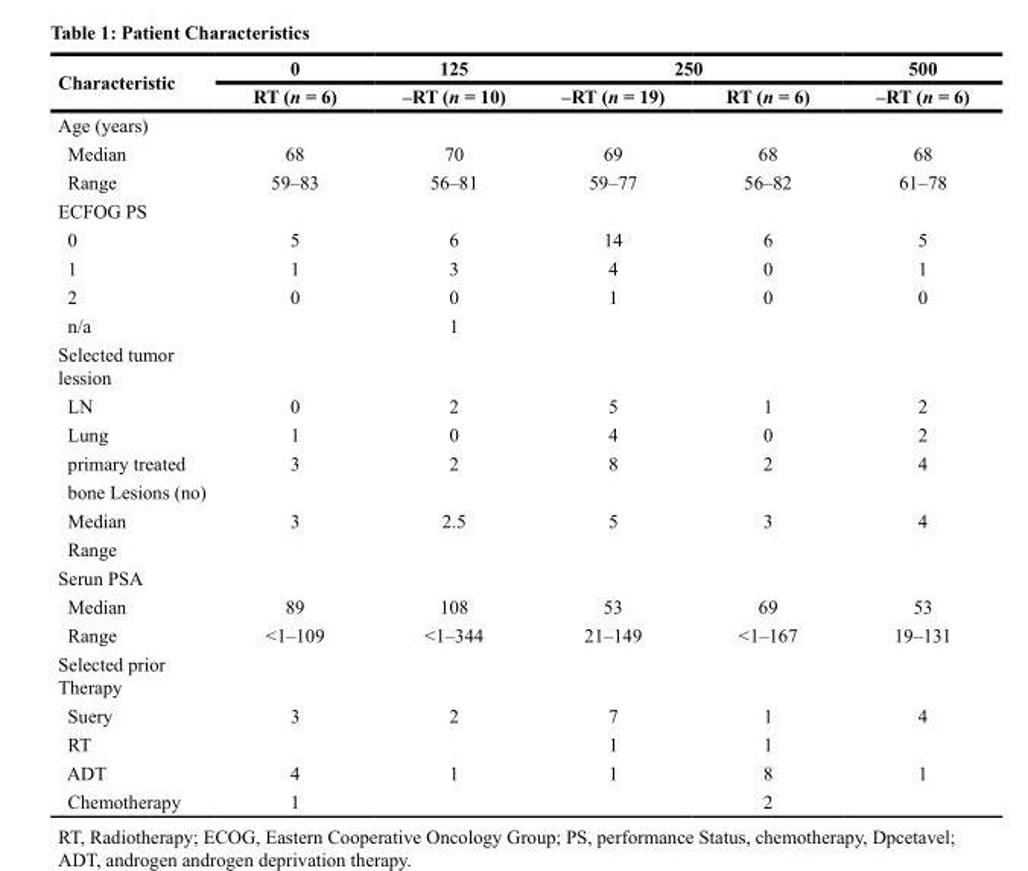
<table><thead><tr><td rowspan="2">Characteristic</td><td rowspan="2">0 RT (n = 6)</td><td rowspan="2">125 –RT (n = 10)</td><td colspan="2">250</td><td rowspan="2">500 –RT (n = 6)</td></tr><tr><td>–RT (n = 19)</td><td>RT (n = 6)</td></tr></thead><tbody><tr><td colspan="6">Age (years)</td></tr><tr><td>Median</td><td>68</td><td>70</td><td>69</td><td>68</td><td>68</td></tr><tr><td>Range</td><td>59–83</td><td>56–81</td><td>59–77</td><td>56–82</td><td>61–78</td></tr><tr><td colspan="6">ECFOG PS</td></tr><tr><td>0</td><td>5</td><td>6</td><td>14</td><td>6</td><td>5</td></tr><tr><td>1</td><td>1</td><td>3</td><td>4</td><td>0</td><td>1</td></tr><tr><td>2</td><td>0</td><td>0</td><td>1</td><td>0</td><td>0</td></tr><tr><td>n/a</td><td></td><td>1</td><td></td><td></td><td></td></tr><tr><td colspan="6">Selected tumor lession</td></tr><tr><td>LN</td><td>0</td><td>2</td><td>5</td><td>1</td><td>2</td></tr><tr><td>Lung</td><td>1</td><td>0</td><td>4</td><td>0</td><td>2</td></tr><tr><td>primary treated</td><td>3</td><td>2</td><td>8</td><td>2</td><td>4</td></tr><tr><td colspan="6">bone Lesions (no)</td></tr><tr><td>Median</td><td>3</td><td>2.5</td><td>5</td><td>3</td><td>4</td></tr><tr><td colspan="6">Range</td></tr><tr><td colspan="6">Serun PSA</td></tr><tr><td>Median</td><td>89</td><td>108</td><td>53</td><td>69</td><td>53</td></tr><tr><td>Range</td><td>&lt;1–109</td><td>&lt;1–344</td><td>21–149</td><td>&lt;1–167</td><td>19–131</td></tr><tr><td colspan="6">Selected prior Therapy</td></tr><tr><td>Suery</td><td>3</td><td>2</td><td>7</td><td>1</td><td>4</td></tr><tr><td>RT</td><td></td><td></td><td>1</td><td>1</td><td></td></tr><tr><td>ADT</td><td>4</td><td>1</td><td>1</td><td>8</td><td>1</td></tr><tr><td>Chemotherapy</td><td>1</td><td></td><td></td><td>2</td><td></td></tr></tbody></table>